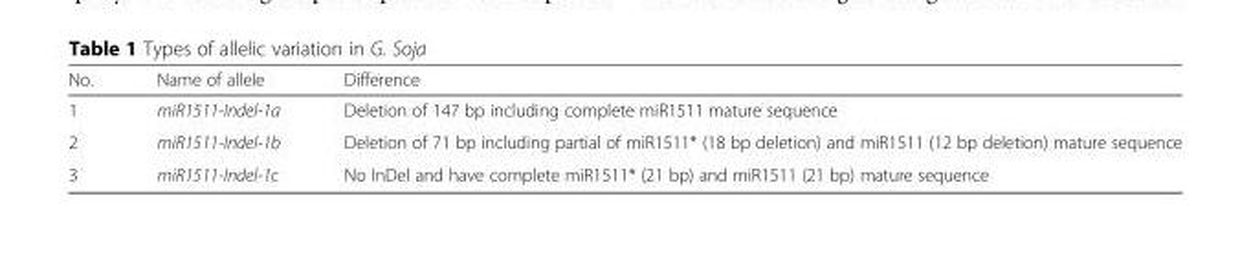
<table><thead><tr><td>No.</td><td>Name of allele</td><td>Difference</td></tr></thead><tbody><tr><td>1</td><td>miR1511-Indel-1a</td><td>Deletion of 147 bp including complete miR1511 mature sequence</td></tr><tr><td>2</td><td>miR1511-Indel-1b</td><td>Deletion of 71 bp including partial of miR1511* (18 bp deletion) and miR1511 (12 bp deletion) mature sequence</td></tr><tr><td>3</td><td>miR1511-Indel-1c</td><td>No InDel and have complete miR1511* (21 bp) and miR1511 (21 bp) mature sequence</td></tr></tbody></table>